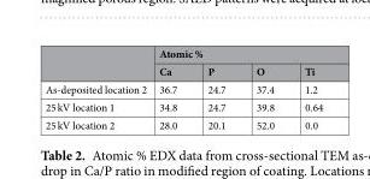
<table><thead><tr><td rowspan="2"></td><td colspan="4">Atomic %</td></tr><tr><td>Ca</td><td>P</td><td>O</td><td>Ti</td></tr></thead><tbody><tr><td>As-deposited location 2</td><td>36.7</td><td>24.7</td><td>37.4</td><td>1.2</td></tr><tr><td>25 kV location 1</td><td>34.8</td><td>24.7</td><td>39.8</td><td>0.64</td></tr><tr><td>25 kV location 2</td><td>28.0</td><td>20.1</td><td>52.0</td><td>0.0</td></tr></tbody></table>